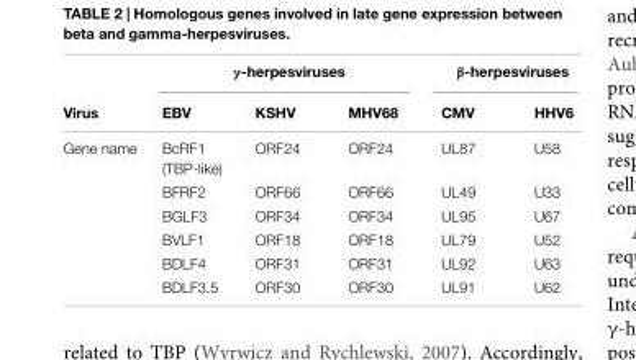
<table><thead><tr><td rowspan="2">Virus</td><td colspan="3">γ-herpesviruses</td><td colspan="2">β-herpesviruses</td></tr><tr><td>EBV</td><td>KSHV</td><td>MHV68</td><td>CMV</td><td>HHV6</td></tr></thead><tbody><tr><td rowspan="6">Gene name</td><td>BcRF1 (TBP-like)</td><td>ORF24</td><td>ORF24</td><td>UL87</td><td>U58</td></tr><tr><td>BFRF2</td><td>ORF66</td><td>ORF66</td><td>UL49</td><td>U33</td></tr><tr><td>BGLF3</td><td>ORF34</td><td>ORF34</td><td>UL95</td><td>U67</td></tr><tr><td>BVLF1</td><td>ORF18</td><td>ORF18</td><td>UL79</td><td>U52</td></tr><tr><td>BDLF4</td><td>ORF31</td><td>ORF31</td><td>UL92</td><td>U63</td></tr><tr><td>BDLF3.5</td><td>ORF30</td><td>ORF30</td><td>UL91</td><td>U62</td></tr></tbody></table>